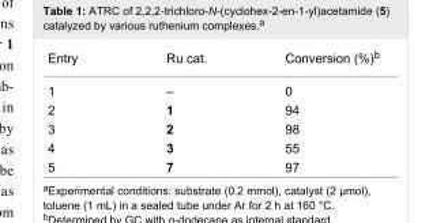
<table><tbody><tr><td>Entry</td><td>Ru cat.</td><td>Conversion (%)<sup>b</sup></td></tr><tr><td>1</td><td>–</td><td>0</td></tr><tr><td>2</td><td>1</td><td>94</td></tr><tr><td>3</td><td>2</td><td>98</td></tr><tr><td>4</td><td>3</td><td>55</td></tr><tr><td>5</td><td>7</td><td>97</td></tr></tbody></table>